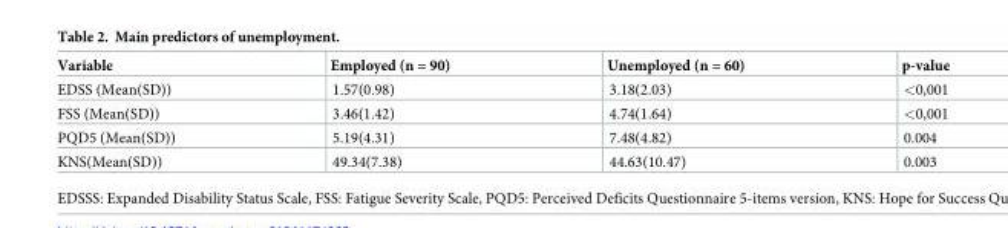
<table><thead><tr><td>Variable</td><td>Employed (n = 90)</td><td>Unemployed (n = 60)</td><td>p-value</td></tr></thead><tbody><tr><td>EDSS (Mean(SD))</td><td>1.57(0.98)</td><td>3.18(2.03)</td><td>&lt;0,001</td></tr><tr><td>FSS (Mean(SD))</td><td>3.46(1.42)</td><td>4.74(1.64)</td><td>&lt;0,001</td></tr><tr><td>PQD5 (Mean(SD))</td><td>5.19(4.31)</td><td>7.48(4.82)</td><td>0.004</td></tr><tr><td>KNS(Mean(SD))</td><td>49.34(7.38)</td><td>44.63(10.47)</td><td>0.003</td></tr></tbody></table>